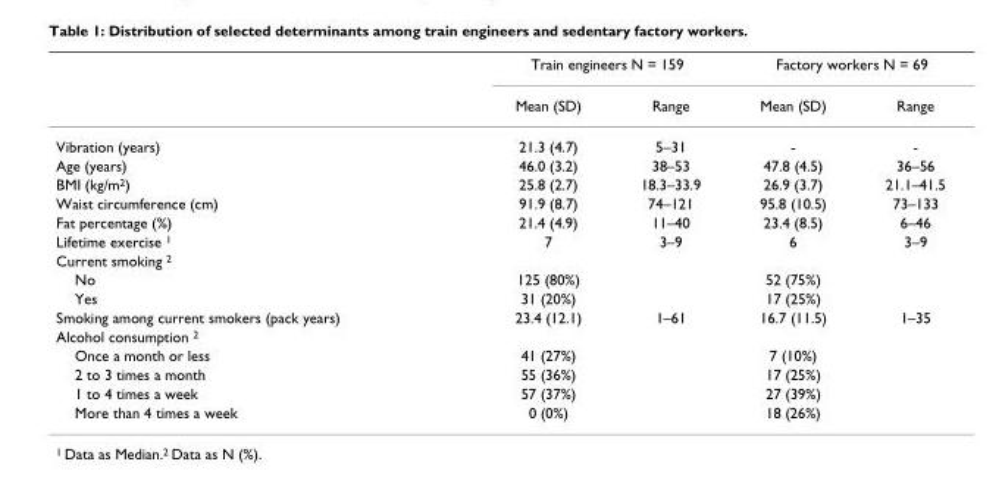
<table><thead><tr><td rowspan="2"></td><td colspan="2">Train engineers N = 159</td><td colspan="2">Factory workers N = 69</td></tr><tr><td>Mean (SD)</td><td>Range</td><td>Mean (SD)</td><td>Range</td></tr></thead><tbody><tr><td>Vibration (years)</td><td>21.3 (4.7)</td><td>5–31</td><td>-</td><td>-</td></tr><tr><td>Age (years)</td><td>46.0 (3.2)</td><td>38–53</td><td>47.8 (4.5)</td><td>36–56</td></tr><tr><td>BMI (kg/m<sup>2</sup>)</td><td>25.8 (2.7)</td><td>18.3–33.9</td><td>26.9 (3.7)</td><td>21.1–41.5</td></tr><tr><td>Waist circumference (cm)</td><td>91.9 (8.7)</td><td>74–121</td><td>95.8 (10.5)</td><td>73–133</td></tr><tr><td>Fat percentage (%)</td><td>21.4 (4.9)</td><td>11–40</td><td>23.4 (8.5)</td><td>6–46</td></tr><tr><td>Lifetime exercise <sup>1</sup></td><td>7</td><td>3–9</td><td>6</td><td>3–9</td></tr><tr><td colspan="5">Current smoking <sup>2</sup></td></tr><tr><td>No</td><td>125 (80%)</td><td></td><td>52 (75%)</td><td></td></tr><tr><td>Yes</td><td>31 (20%)</td><td></td><td>17 (25%)</td><td></td></tr><tr><td>Smoking among current smokers (pack years)</td><td>23.4 (12.1)</td><td>1–61</td><td>16.7 (11.5)</td><td>1–35</td></tr><tr><td colspan="5">Alcohol consumption <sup>2</sup></td></tr><tr><td>Once a month or less</td><td>41 (27%)</td><td></td><td>7 (10%)</td><td></td></tr><tr><td>2 to 3 times a month</td><td>55 (36%)</td><td></td><td>17 (25%)</td><td></td></tr><tr><td>1 to 4 times a week</td><td>57 (37%)</td><td></td><td>27 (39%)</td><td></td></tr><tr><td>More than 4 times a week</td><td>0 (0%)</td><td></td><td>18 (26%)</td><td></td></tr></tbody></table>